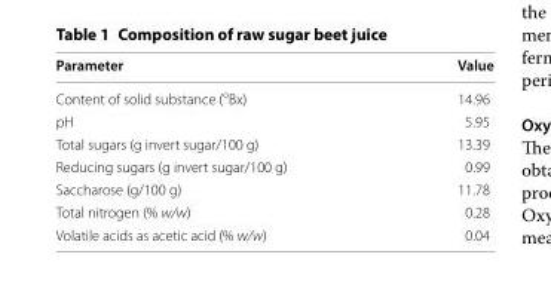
<table><thead><tr><td>Parameter</td><td>Value</td></tr></thead><tbody><tr><td>Content of solid substance (<sup>o</sup>Bx)</td><td>14.96</td></tr><tr><td>pH</td><td>5.95</td></tr><tr><td>Total sugars (g invert sugar/100 g)</td><td>13.39</td></tr><tr><td>Reducing sugars (g invert sugar/100 g)</td><td>0.99</td></tr><tr><td>Saccharose (g/100 g)</td><td>11.78</td></tr><tr><td>Total nitrogen (% w/w)</td><td>0.28</td></tr><tr><td>Volatile acids as acetic acid (% w/w)</td><td>0.04</td></tr></tbody></table>